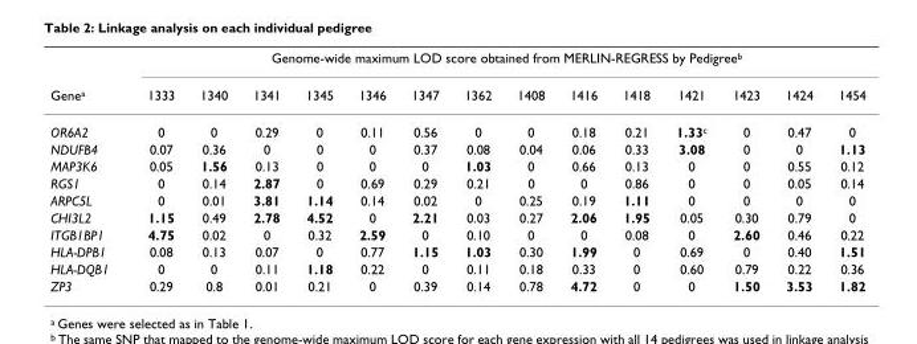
<table><thead><tr><td rowspan="2">Gene<sup>a</sup></td><td colspan="14">Genome-wide maximum LOD score obtained from MERLIN-REGRESS by Pedigree<sup>b</sup></td></tr><tr><td>1333</td><td>1340</td><td>1341</td><td>1345</td><td>1346</td><td>1347</td><td>1362</td><td>1408</td><td>1416</td><td>1418</td><td>1421</td><td>1423</td><td>1424</td><td>1454</td></tr></thead><tbody><tr><td>OR6A2</td><td>0</td><td>0</td><td>0.29</td><td>0</td><td>0.11</td><td>0.56</td><td>0</td><td>0</td><td>0.18</td><td>0.21</td><td>1.33<sup>c</sup></td><td>0</td><td>0.47</td><td>0</td></tr><tr><td>NDUFB4</td><td>0.07</td><td>0.36</td><td>0</td><td>0</td><td>0</td><td>0.37</td><td>0.08</td><td>0.04</td><td>0.06</td><td>0.33</td><td>3.08</td><td>0</td><td>0</td><td>1.13</td></tr><tr><td>MAP3K6</td><td>0.05</td><td>1.56</td><td>0.13</td><td>0</td><td>0</td><td>0</td><td>1.03</td><td>0</td><td>0.66</td><td>0.13</td><td>0</td><td>0</td><td>0.55</td><td>0.12</td></tr><tr><td>RGS1</td><td>0</td><td>0.14</td><td>2.87</td><td>0</td><td>0.69</td><td>0.29</td><td>0.21</td><td>0</td><td>0</td><td>0.86</td><td>0</td><td>0</td><td>0.05</td><td>0.14</td></tr><tr><td>ARPC5L</td><td>0</td><td>0.01</td><td>3.81</td><td>1.14</td><td>0.14</td><td>0.02</td><td>0</td><td>0.25</td><td>0.19</td><td>1.11</td><td>0</td><td>0</td><td>0</td><td>0</td></tr><tr><td>CHI3L2</td><td>1.15</td><td>0.49</td><td>2.78</td><td>4.52</td><td>0</td><td>2.21</td><td>0.03</td><td>0.27</td><td>2.06</td><td>1.95</td><td>0.05</td><td>0.30</td><td>0.79</td><td>0</td></tr><tr><td>ITGB1BP1</td><td>4.75</td><td>0.02</td><td>0</td><td>0.32</td><td>2.59</td><td>0</td><td>0.10</td><td>0</td><td>0</td><td>0.08</td><td>0</td><td>2.60</td><td>0.46</td><td>0.22</td></tr><tr><td>HLA-DPB1</td><td>0.08</td><td>0.13</td><td>0.07</td><td>0</td><td>0.77</td><td>1.15</td><td>1.03</td><td>0.30</td><td>1.99</td><td>0</td><td>0.69</td><td>0</td><td>0.40</td><td>1.51</td></tr><tr><td>HLA-DQB1</td><td>0</td><td>0</td><td>0.11</td><td>1.18</td><td>0.22</td><td>0</td><td>0.11</td><td>0.18</td><td>0.33</td><td>0</td><td>0.60</td><td>0.79</td><td>0.22</td><td>0.36</td></tr><tr><td>ZP3</td><td>0.29</td><td>0.8</td><td>0.01</td><td>0.21</td><td>0</td><td>0.39</td><td>0.14</td><td>0.78</td><td>4.72</td><td>0</td><td>0</td><td>1.50</td><td>3.53</td><td>1.82</td></tr></tbody></table>